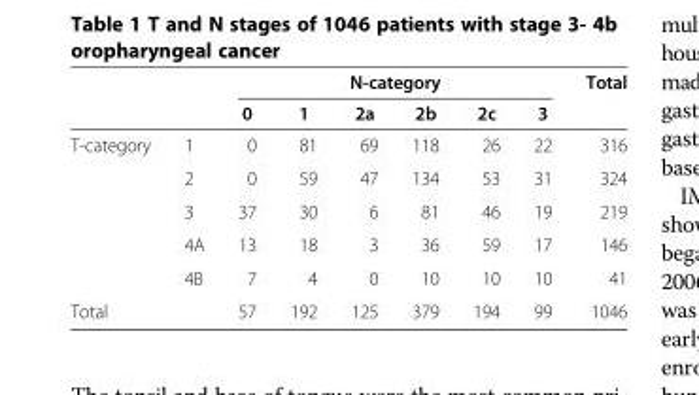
<table><thead><tr><td rowspan="2"></td><td rowspan="2"></td><td colspan="6">N-category</td><td rowspan="2">Total</td></tr><tr><td>0</td><td>1</td><td>2a</td><td>2b</td><td>2c</td><td>3</td></tr></thead><tbody><tr><td rowspan="5">T-category</td><td>1</td><td>0</td><td>81</td><td>69</td><td>118</td><td>26</td><td>22</td><td>316</td></tr><tr><td>2</td><td>0</td><td>59</td><td>47</td><td>134</td><td>53</td><td>31</td><td>324</td></tr><tr><td>3</td><td>37</td><td>30</td><td>6</td><td>81</td><td>46</td><td>19</td><td>219</td></tr><tr><td>4A</td><td>13</td><td>18</td><td>3</td><td>36</td><td>59</td><td>17</td><td>146</td></tr><tr><td>4B</td><td>7</td><td>4</td><td>0</td><td>10</td><td>10</td><td>10</td><td>41</td></tr><tr><td colspan="2">Total</td><td>57</td><td>192</td><td>125</td><td>379</td><td>194</td><td>99</td><td>1046</td></tr></tbody></table>